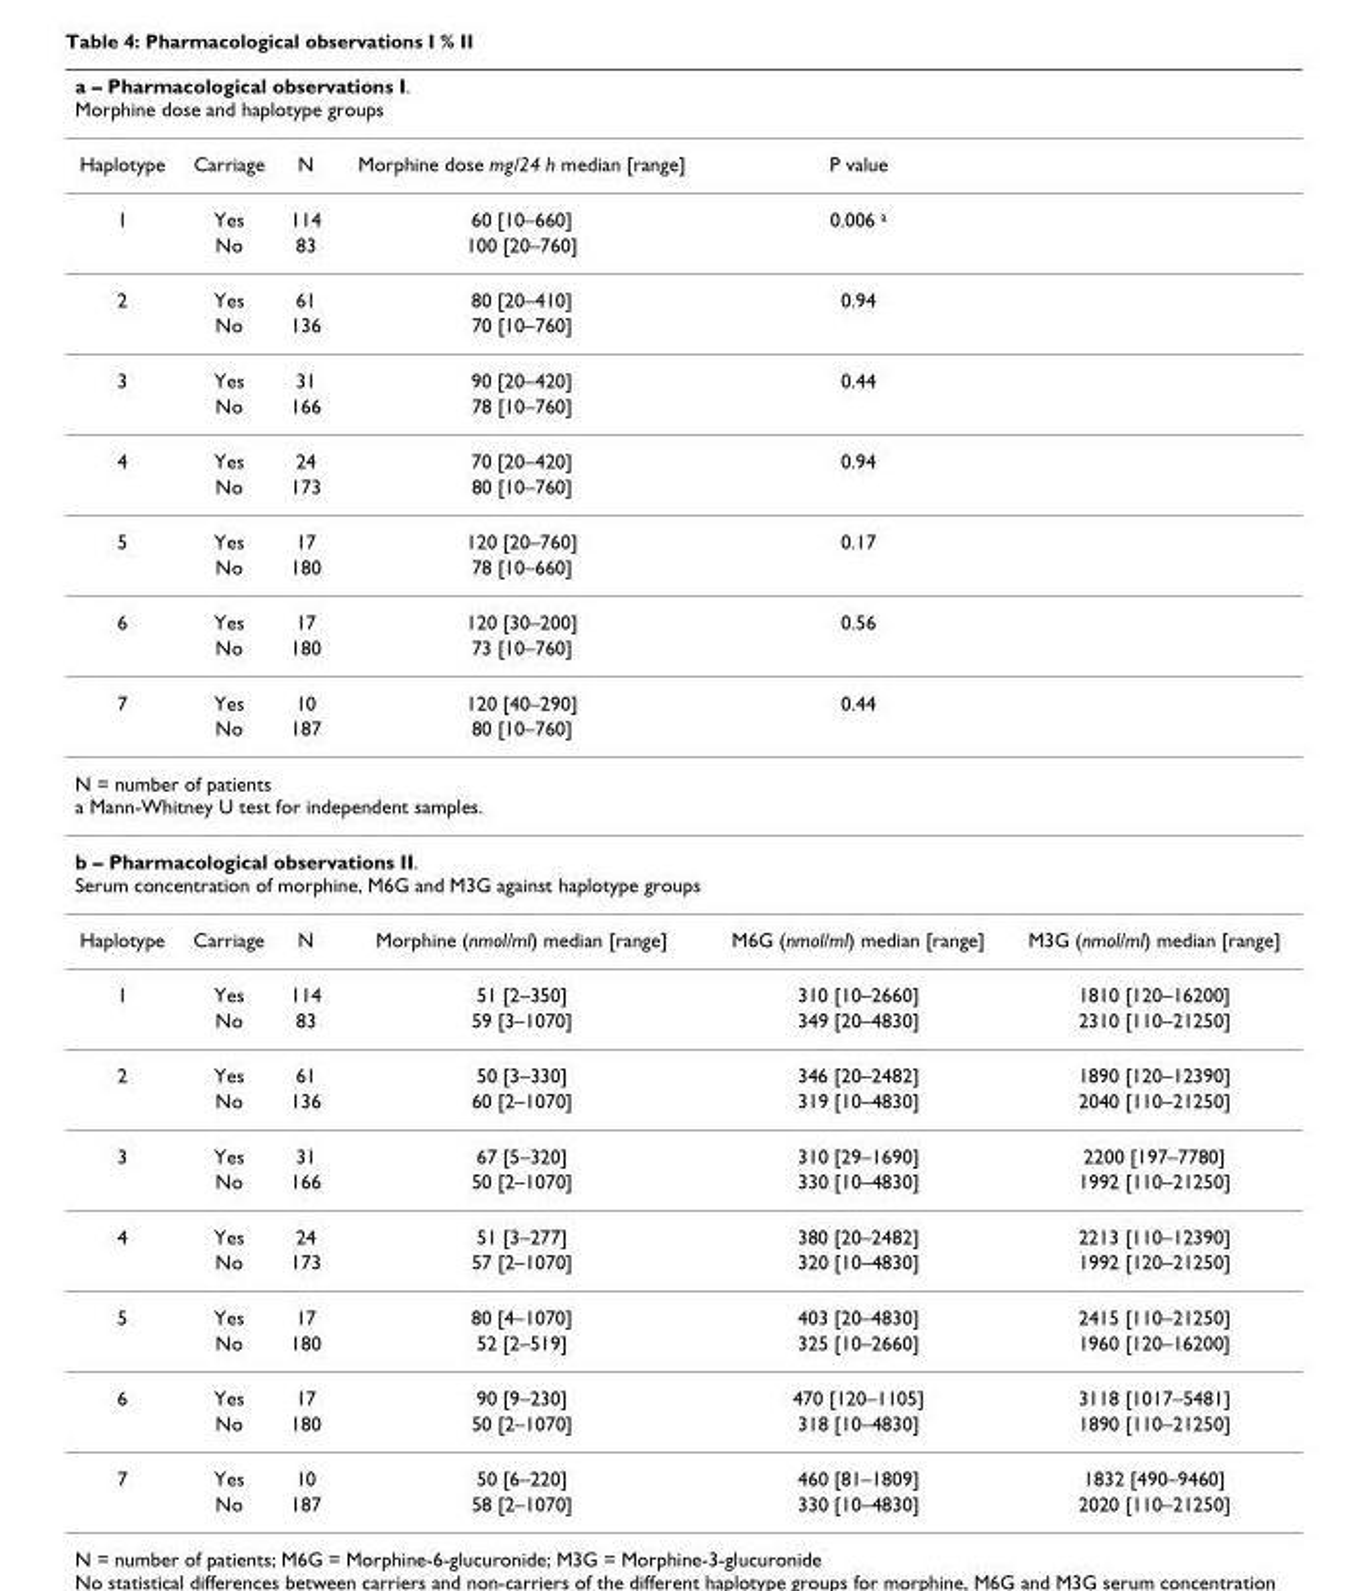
<table><thead><tr><td colspan="6">a – Pharmacological observations I. Morphine dose and haplotype groups</td></tr><tr><td>Haplotype</td><td>Carriage</td><td>N</td><td>Morphine dose mg/24 h median [range]</td><td>P value</td><td></td></tr></thead><tbody><tr><td rowspan="2">1</td><td>Yes</td><td>114</td><td>60 [10–660]</td><td>0.006 <sup>a</sup></td><td></td></tr><tr><td>No</td><td>83</td><td>100 [20–760]</td><td></td><td></td></tr><tr><td rowspan="2">2</td><td>Yes</td><td>61</td><td>80 [20–410]</td><td>0.94</td><td></td></tr><tr><td>No</td><td>136</td><td>70 [10–760]</td><td></td><td></td></tr><tr><td rowspan="2">3</td><td>Yes</td><td>31</td><td>90 [20–420]</td><td>0.44</td><td></td></tr><tr><td>No</td><td>166</td><td>78 [10–760]</td><td></td><td></td></tr><tr><td rowspan="2">4</td><td>Yes</td><td>24</td><td>70 [20–420]</td><td>0.94</td><td></td></tr><tr><td>No</td><td>173</td><td>80 [10–760]</td><td></td><td></td></tr><tr><td rowspan="2">5</td><td>Yes</td><td>17</td><td>120 [20–760]</td><td>0.17</td><td></td></tr><tr><td>No</td><td>180</td><td>78 [10–660]</td><td></td><td></td></tr><tr><td rowspan="2">6</td><td>Yes</td><td>17</td><td>120 [30–200]</td><td>0.56</td><td></td></tr><tr><td>No</td><td>180</td><td>73 [10–760]</td><td></td><td></td></tr><tr><td rowspan="2">7</td><td>Yes</td><td>10</td><td>120 [40–290]</td><td>0.44</td><td></td></tr><tr><td>No</td><td>187</td><td>80 [10–760]</td><td></td><td></td></tr><tr><td colspan="6">N = number of patients a Mann-Whitney U test for independent samples.</td></tr><tr><td colspan="6">b – Pharmacological observations II. Serum concentration of morphine, M6G and M3G against haplotype groups</td></tr><tr><td>Haplotype</td><td>Carriage</td><td>N</td><td>Morphine (nmol/ml) median [range]</td><td>M6G (nmol/ml) median [range]</td><td>M3G (nmol/ml) median [range]</td></tr><tr><td rowspan="2">1</td><td>Yes</td><td>114</td><td>51 [2–350]</td><td>310 [10–2660]</td><td>1810 [120–16200]</td></tr><tr><td>No</td><td>83</td><td>59 [3–1070]</td><td>349 [20–4830]</td><td>2310 [110–21250]</td></tr><tr><td rowspan="2">2</td><td>Yes</td><td>61</td><td>50 [3–330]</td><td>346 [20–2482]</td><td>1890 [120–12390]</td></tr><tr><td>No</td><td>136</td><td>60 [2–1070]</td><td>319 [10–4830]</td><td>2040 [110–21250]</td></tr><tr><td rowspan="2">3</td><td>Yes</td><td>31</td><td>67 [5–320]</td><td>310 [29–1690]</td><td>2200 [197–7780]</td></tr><tr><td>No</td><td>166</td><td>50 [2–1070]</td><td>330 [10–4830]</td><td>1992 [110–21250]</td></tr><tr><td rowspan="2">4</td><td>Yes</td><td>24</td><td>51 [3–277]</td><td>380 [20–2482]</td><td>2213 [110–12390]</td></tr><tr><td>No</td><td>173</td><td>57 [2–1070]</td><td>320 [10–4830]</td><td>1992 [120–21250]</td></tr><tr><td rowspan="2">5</td><td>Yes</td><td>17</td><td>80 [4–1070]</td><td>403 [20–4830]</td><td>2415 [110–21250]</td></tr><tr><td>No</td><td>180</td><td>52 [2–519]</td><td>325 [10–2660]</td><td>1960 [120–16200]</td></tr><tr><td rowspan="2">6</td><td>Yes</td><td>17</td><td>90 [9–230]</td><td>470 [120–1105]</td><td>3118 [1017–5481]</td></tr><tr><td>No</td><td>180</td><td>50 [2–1070]</td><td>318 [10–4830]</td><td>1890 [110–21250]</td></tr><tr><td rowspan="2">7</td><td>Yes</td><td>10</td><td>50 [6–220]</td><td>460 [81–1809]</td><td>1832 [490–9460]</td></tr><tr><td>No</td><td>187</td><td>58 [2–1070]</td><td>330 [10–4830]</td><td>2020 [110–21250]</td></tr></tbody></table>